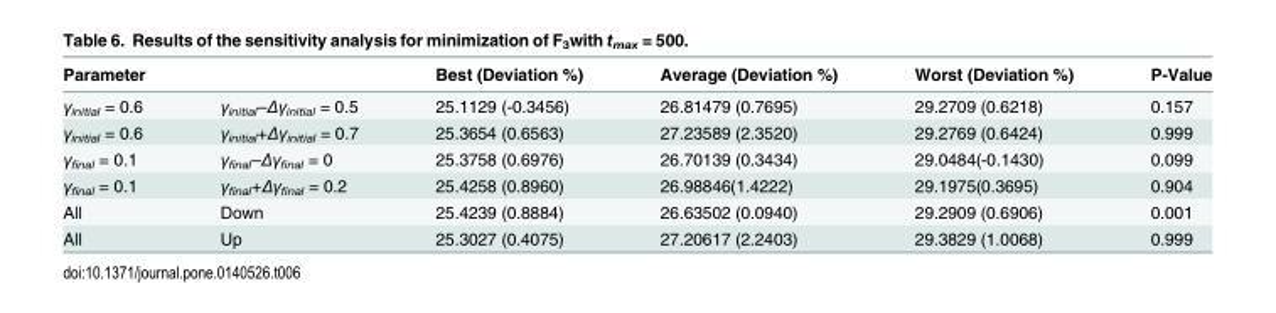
<table><thead><tr><td colspan="2">Parameter</td><td rowspan="2">Best (Deviation %) 25.1129 (-0.3456)</td><td rowspan="2">Average (Deviation %) 26.81479 (0.7695)</td><td rowspan="2">Worst (Deviation %) 29.2709 (0.6218)</td><td rowspan="2">P-Value 0.157</td></tr><tr><td>γ<sub>initial</sub> = 0.6</td><td>γinitial–Δγinitial = 0.5</td></tr></thead><tbody><tr><td>γ<sub>initial</sub> = 0.6</td><td>γinitial+Δγinitial = 0.7</td><td>25.3654 (0.6563)</td><td>27.23589 (2.3520)</td><td>29.2769 (0.6424)</td><td>0.999</td></tr><tr><td>γ<sub>final</sub> = 0.1</td><td>γfinal–Δγfinal = 0</td><td>25.3758 (0.6976)</td><td>26.70139 (0.3434)</td><td>29.0484(-0.1430)</td><td>0.099</td></tr><tr><td>γ<sub>final</sub> = 0.1</td><td>γfinal+Δγfinal = 0.2</td><td>25.4258 (0.8960)</td><td>26.98846(1.4222)</td><td>29.1975(0.3695)</td><td>0.904</td></tr><tr><td>All</td><td>Down</td><td>25.4239 (0.8884)</td><td>26.63502 (0.0940)</td><td>29.2909 (0.6906)</td><td>0.001</td></tr><tr><td>All</td><td>Up</td><td>25.3027 (0.4075)</td><td>27.20617 (2.2403)</td><td>29.3829 (1.0068)</td><td>0.999</td></tr></tbody></table>